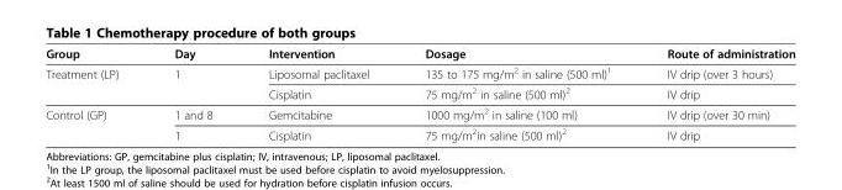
<table><thead><tr><td>Group</td><td>Day</td><td>Intervention</td><td>Dosage</td><td>Route of administration</td></tr></thead><tbody><tr><td rowspan="2">Treatment (LP)</td><td>1</td><td>Liposomal paclitaxel</td><td>135 to 175 mg/m<sup>2</sup> in saline (500 ml)<sup>1</sup></td><td>IV drip (over 3 hours)</td></tr><tr><td></td><td>Cisplatin</td><td>75 mg/m<sup>2</sup> in saline (500 ml)<sup>2</sup></td><td>IV drip</td></tr><tr><td rowspan="2">Control (GP)</td><td>1 and 8</td><td>Gemcitabine</td><td>1000 mg/m<sup>2</sup> in saline (100 ml)</td><td>IV drip (over 30 min)</td></tr><tr><td>1</td><td>Cisplatin</td><td>75 mg/m<sup>2</sup>in saline (500 ml)<sup>2</sup></td><td>IV drip</td></tr></tbody></table>